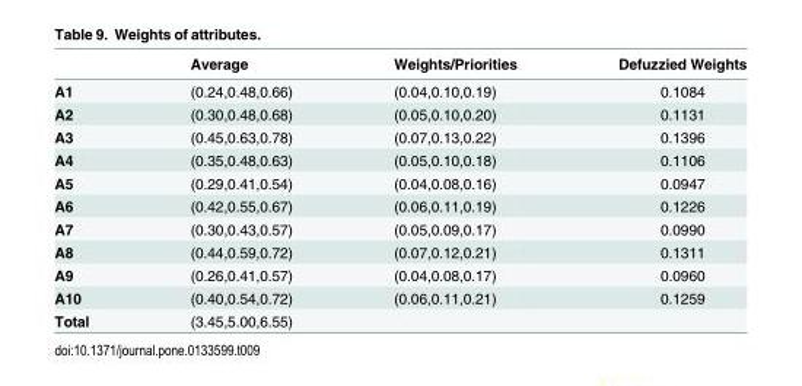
<table><thead><tr><td></td><td>Average</td><td>Weights/Priorities</td><td>Defuzzied Weights</td></tr></thead><tbody><tr><td>A1</td><td>(0.24,0.48,0.66)</td><td>(0.04,0.10,0.19)</td><td>0.1084</td></tr><tr><td>A2</td><td>(0.30,0.48,0.68)</td><td>(0.05,0.10,0.20)</td><td>0.1131</td></tr><tr><td>A3</td><td>(0.45,0.63,0.78)</td><td>(0.07,0.13,0.22)</td><td>0.1396</td></tr><tr><td>A4</td><td>(0.35,0.48,0.63)</td><td>(0.05,0.10,0.18)</td><td>0.1106</td></tr><tr><td>A5</td><td>(0.29,0.41,0.54)</td><td>(0.04,0.08,0.16)</td><td>0.0947</td></tr><tr><td>A6</td><td>(0.42,0.55,0.67)</td><td>(0.06,0.11,0.19)</td><td>0.1226</td></tr><tr><td>A7</td><td>(0.30,0.43,0.57)</td><td>(0.05,0.09,0.17)</td><td>0.0990</td></tr><tr><td>A8</td><td>(0.44,0.59,0.72)</td><td>(0.07,0.12,0.21)</td><td>0.1311</td></tr><tr><td>A9</td><td>(0.26,0.41,0.57)</td><td>(0.04,0.08,0.17)</td><td>0.0960</td></tr><tr><td>A10</td><td>(0.40,0.54,0.72)</td><td>(0.06,0.11,0.21)</td><td>0.1259</td></tr><tr><td>Total</td><td>(3.45,5.00,6.55)</td><td></td><td></td></tr></tbody></table>